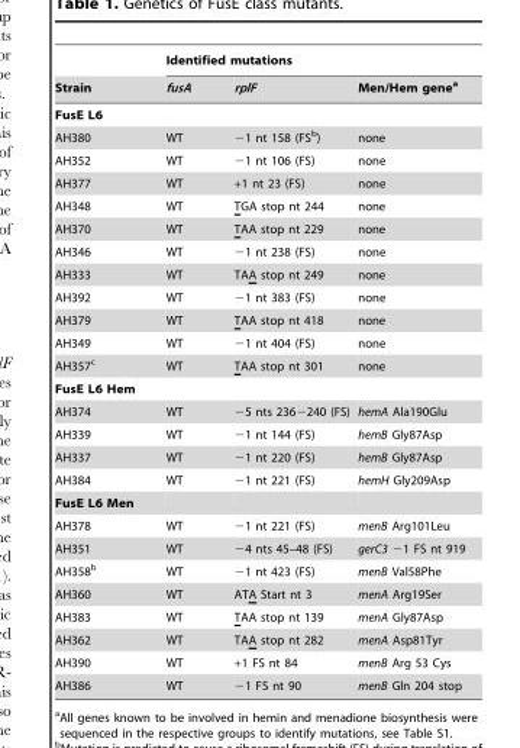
<table><thead><tr><td rowspan="2">Strain</td><td colspan="3">Identified mutations</td></tr><tr><td>fusA</td><td>rplF</td><td>Men/Hem gene<sup>a</sup></td></tr></thead><tbody><tr><td colspan="4">FusE L6</td></tr><tr><td>AH380</td><td>WT</td><td>−1 nt 158 (FS<sup>b</sup>)</td><td>none</td></tr><tr><td>AH352</td><td>WT</td><td>−1 nt 106 (FS)</td><td>none</td></tr><tr><td>AH377</td><td>WT</td><td>+1 nt 23 (FS)</td><td>none</td></tr><tr><td>AH348</td><td>WT</td><td>TGA stop nt 244</td><td>none</td></tr><tr><td>AH370</td><td>WT</td><td>TAA stop nt 229</td><td>none</td></tr><tr><td>AH346</td><td>WT</td><td>−1 nt 238 (FS)</td><td>none</td></tr><tr><td>AH333</td><td>WT</td><td>TAA stop nt 249</td><td>none</td></tr><tr><td>AH392</td><td>WT</td><td>−1 nt 383 (FS)</td><td>none</td></tr><tr><td>AH379</td><td>WT</td><td>TAA stop nt 418</td><td>none</td></tr><tr><td>AH349</td><td>WT</td><td>−1 nt 404 (FS)</td><td>none</td></tr><tr><td>AH357<sup>c</sup></td><td>WT</td><td>TAA stop nt 301</td><td>none</td></tr><tr><td colspan="4">FusE L6 Hem</td></tr><tr><td>AH374</td><td>WT</td><td>−5 nts 236−240 (FS)</td><td>hemA Ala190Glu</td></tr><tr><td>AH339</td><td>WT</td><td>−1 nt 144 (FS)</td><td>hemB Gly87Asp</td></tr><tr><td>AH337</td><td>WT</td><td>−1 nt 220 (FS)</td><td>hemB Gly87Asp</td></tr><tr><td>AH384</td><td>WT</td><td>−1 nt 221 (FS)</td><td>hemH Gly209Asp</td></tr><tr><td colspan="4">FusE L6 Men</td></tr><tr><td>AH378</td><td>WT</td><td>−1 nt 221 (FS)</td><td>menB Arg101Leu</td></tr><tr><td>AH351</td><td>WT</td><td>−4 nts 45–48 (FS)</td><td>gerC3 −1 FS nt 919</td></tr><tr><td>AH358<sup>b</sup></td><td>WT</td><td>−1 nt 423 (FS)</td><td>menB Val58Phe</td></tr><tr><td>AH360</td><td>WT</td><td>ATA Start nt 3</td><td>menA Arg19Ser</td></tr><tr><td>AH383</td><td>WT</td><td>TAA stop nt 139</td><td>menA Gly87Asp</td></tr><tr><td>AH362</td><td>WT</td><td>TAA stop nt 282</td><td>menA Asp81Tyr</td></tr><tr><td>AH390</td><td>WT</td><td>+1 FS nt 84</td><td>menB Arg 53 Cys</td></tr><tr><td>AH386</td><td>WT</td><td>−1 FS nt 90</td><td>menB Gln 204 stop</td></tr></tbody></table>